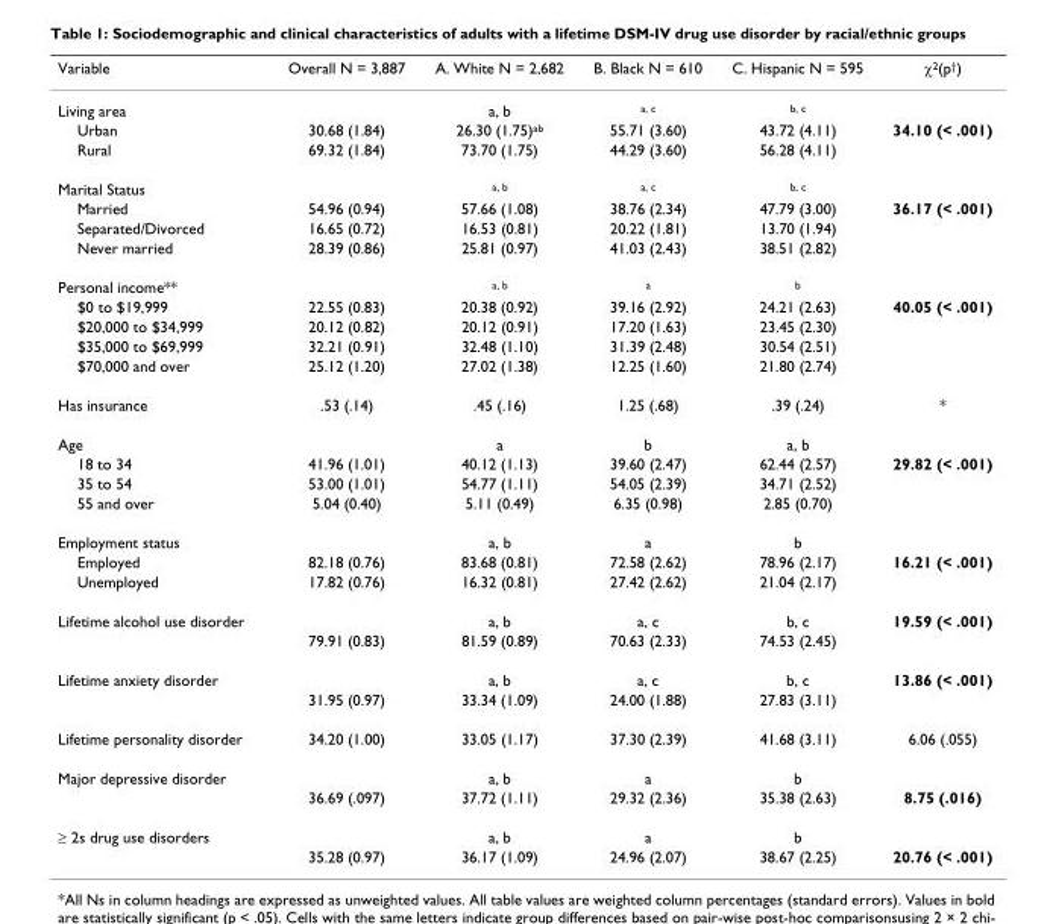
<table><thead><tr><td>Variable</td><td>Overall N = 3,887</td><td>A. White N = 2,682</td><td>B. Black N = 610</td><td>C. Hispanic N = 595</td><td>χ<sup>2</sup>(p<sup>†</sup>)</td></tr></thead><tbody><tr><td>Living area</td><td></td><td>a, b</td><td><sup>a, c</sup></td><td><sup>b, c</sup></td><td></td></tr><tr><td>Urban</td><td>30.68 (1.84)</td><td>26.30 (1.75)<sup>ab</sup></td><td>55.71 (3.60)</td><td>43.72 (4.11)</td><td>34.10 (&lt; .001)</td></tr><tr><td>Rural</td><td>69.32 (1.84)</td><td>73.70 (1.75)</td><td>44.29 (3.60)</td><td>56.28 (4.11)</td><td></td></tr><tr><td>Marital Status</td><td></td><td><sup>a, b</sup></td><td><sup>a, c</sup></td><td><sup>b, c</sup></td><td></td></tr><tr><td>Married</td><td>54.96 (0.94)</td><td>57.66 (1.08)</td><td>38.76 (2.34)</td><td>47.79 (3.00)</td><td>36.17 (&lt; .001)</td></tr><tr><td>Separated/Divorced</td><td>16.65 (0.72)</td><td>16.53 (0.81)</td><td>20.22 (1.81)</td><td>13.70 (1.94)</td><td></td></tr><tr><td>Never married</td><td>28.39 (0.86)</td><td>25.81 (0.97)</td><td>41.03 (2.43)</td><td>38.51 (2.82)</td><td></td></tr><tr><td>Personal income**</td><td></td><td><sup>a, b</sup></td><td><sup>a</sup></td><td><sup>b</sup></td><td></td></tr><tr><td>$0 to $19,999</td><td>22.55 (0.83)</td><td>20.38 (0.92)</td><td>39.16 (2.92)</td><td>24.21 (2.63)</td><td>40.05 (&lt; .001)</td></tr><tr><td>$20,000 to $34,999</td><td>20.12 (0.82)</td><td>20.12 (0.91)</td><td>17.20 (1.63)</td><td>23.45 (2.30)</td><td></td></tr><tr><td>$35,000 to $69,999</td><td>32.21 (0.91)</td><td>32.48 (1.10)</td><td>31.39 (2.48)</td><td>30.54 (2.51)</td><td></td></tr><tr><td>$70,000 and over</td><td>25.12 (1.20)</td><td>27.02 (1.38)</td><td>12.25 (1.60)</td><td>21.80 (2.74)</td><td></td></tr><tr><td>Has insurance</td><td>.53 (.14)</td><td>.45 (.16)</td><td>1.25 (.68)</td><td>.39 (.24)</td><td>*</td></tr><tr><td>Age</td><td></td><td>a</td><td>b</td><td>a, b</td><td></td></tr><tr><td>18 to 34</td><td>41.96 (1.01)</td><td>40.12 (1.13)</td><td>39.60 (2.47)</td><td>62.44 (2.57)</td><td>29.82 (&lt; .001)</td></tr><tr><td>35 to 54</td><td>53.00 (1.01)</td><td>54.77 (1.11)</td><td>54.05 (2.39)</td><td>34.71 (2.52)</td><td></td></tr><tr><td>55 and over</td><td>5.04 (0.40)</td><td>5.11 (0.49)</td><td>6.35 (0.98)</td><td>2.85 (0.70)</td><td></td></tr><tr><td>Employment status</td><td></td><td>a, b</td><td>a</td><td>b</td><td></td></tr><tr><td>Employed</td><td>82.18 (0.76)</td><td>83.68 (0.81)</td><td>72.58 (2.62)</td><td>78.96 (2.17)</td><td>16.21 (&lt; .001)</td></tr><tr><td>Unemployed</td><td>17.82 (0.76)</td><td>16.32 (0.81)</td><td>27.42 (2.62)</td><td>21.04 (2.17)</td><td></td></tr><tr><td rowspan="2">Lifetime alcohol use disorder</td><td></td><td>a, b</td><td>a, c</td><td>b, c</td><td>19.59 (&lt; .001)</td></tr><tr><td>79.91 (0.83)</td><td>81.59 (0.89)</td><td>70.63 (2.33)</td><td>74.53 (2.45)</td><td></td></tr><tr><td rowspan="2">Lifetime anxiety disorder</td><td></td><td>a, b</td><td>a, c</td><td>b, c</td><td>13.86 (&lt; .001)</td></tr><tr><td>31.95 (0.97)</td><td>33.34 (1.09)</td><td>24.00 (1.88)</td><td>27.83 (3.11)</td><td></td></tr><tr><td>Lifetime personality disorder</td><td>34.20 (1.00)</td><td>33.05 (1.17)</td><td>37.30 (2.39)</td><td>41.68 (3.11)</td><td>6.06 (.055)</td></tr><tr><td rowspan="2">Major depressive disorder</td><td></td><td>a, b</td><td>a</td><td>b</td><td></td></tr><tr><td>36.69 (.097)</td><td>37.72 (1.11)</td><td>29.32 (2.36)</td><td>35.38 (2.63)</td><td>8.75 (.016)</td></tr><tr><td rowspan="2">≥ 2s drug use disorders</td><td></td><td>a, b</td><td>a</td><td>b</td><td></td></tr><tr><td>35.28 (0.97)</td><td>36.17 (1.09)</td><td>24.96 (2.07)</td><td>38.67 (2.25)</td><td>20.76 (&lt; .001)</td></tr></tbody></table>